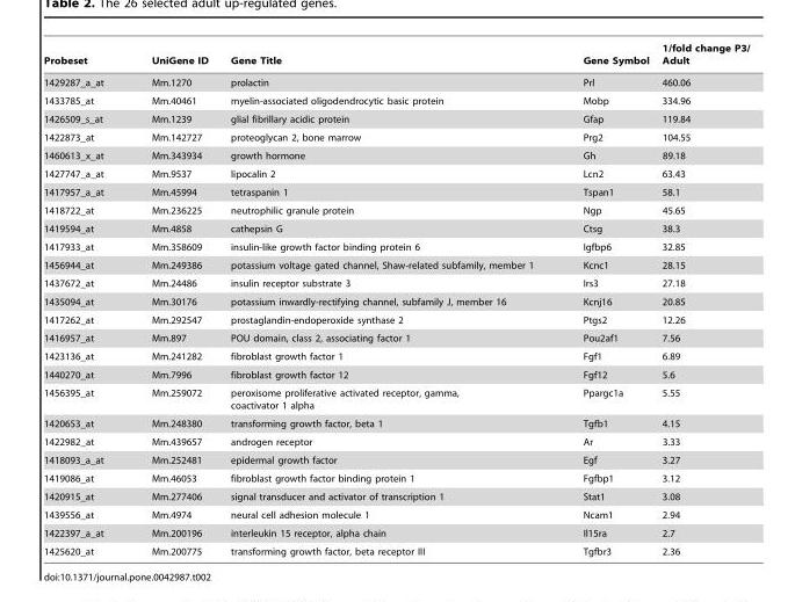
<table><thead><tr><td>Probeset</td><td>UniGene ID</td><td>Gene Title</td><td>Gene Symbol</td><td>1/fold change P3/ Adult</td></tr></thead><tbody><tr><td>1429287_a_at</td><td>Mm.1270</td><td>prolactin</td><td>Prl</td><td>460.06</td></tr><tr><td>1433785_at</td><td>Mm.40461</td><td>myelin-associated oligodendrocytic basic protein</td><td>Mobp</td><td>334.96</td></tr><tr><td>1426509_s_at</td><td>Mm.1239</td><td>glial fibrillary acidic protein</td><td>Gfap</td><td>119.84</td></tr><tr><td>1422873_at</td><td>Mm.142727</td><td>proteoglycan 2, bone marrow</td><td>Prg2</td><td>104.55</td></tr><tr><td>1460613_x_at</td><td>Mm.343934</td><td>growth hormone</td><td>Gh</td><td>89.18</td></tr><tr><td>1427747_a_at</td><td>Mm.9537</td><td>lipocalin 2</td><td>Lcn2</td><td>63.43</td></tr><tr><td>1417957_a_at</td><td>Mm.45994</td><td>tetraspanin 1</td><td>Tspan1</td><td>58.1</td></tr><tr><td>1418722_at</td><td>Mm.236225</td><td>neutrophilic granule protein</td><td>Ngp</td><td>45.65</td></tr><tr><td>1419594_at</td><td>Mm.4858</td><td>cathepsin G</td><td>Ctsg</td><td>38.3</td></tr><tr><td>1417933_at</td><td>Mm.358609</td><td>insulin-like growth factor binding protein 6</td><td>Igfbp6</td><td>32.85</td></tr><tr><td>1456944_at</td><td>Mm.249386</td><td>potassium voltage gated channel, Shaw-related subfamily, member 1</td><td>Kcnc1</td><td>28.15</td></tr><tr><td>1437672_at</td><td>Mm.24486</td><td>insulin receptor substrate 3</td><td>Irs3</td><td>27.18</td></tr><tr><td>1435094_at</td><td>Mm.30176</td><td>potassium inwardly-rectifying channel, subfamily J, member 16</td><td>Kcnj16</td><td>20.85</td></tr><tr><td>1417262_at</td><td>Mm.292547</td><td>prostaglandin-endoperoxide synthase 2</td><td>Ptgs2</td><td>12.26</td></tr><tr><td>1416957_at</td><td>Mm.897</td><td>POU domain, class 2, associating factor 1</td><td>Pou2af1</td><td>7.56</td></tr><tr><td>1423136_at</td><td>Mm.241282</td><td>fibroblast growth factor 1</td><td>Fgf1</td><td>6.89</td></tr><tr><td>1440270_at</td><td>Mm.7996</td><td>fibroblast growth factor 12</td><td>Fgf12</td><td>5.6</td></tr><tr><td>1456395_at</td><td>Mm.259072</td><td>peroxisome proliferative activated receptor, gamma, coactivator 1 alpha</td><td>Ppargc1a</td><td>5.55</td></tr><tr><td>1420653_at</td><td>Mm.248380</td><td>transforming growth factor, beta 1</td><td>Tgfb1</td><td>4.15</td></tr><tr><td>1422982_at</td><td>Mm.439657</td><td>androgen receptor</td><td>Ar</td><td>3.33</td></tr><tr><td>1418093_a_at</td><td>Mm.252481</td><td>epidermal growth factor</td><td>Egf</td><td>3.27</td></tr><tr><td>1419086_at</td><td>Mm.46053</td><td>fibroblast growth factor binding protein 1</td><td>Fgfbp1</td><td>3.12</td></tr><tr><td>1420915_at</td><td>Mm.277406</td><td>signal transducer and activator of transcription 1</td><td>Stat1</td><td>3.08</td></tr><tr><td>1439556_at</td><td>Mm.4974</td><td>neural cell adhesion molecule 1</td><td>Ncam1</td><td>2.94</td></tr><tr><td>1422397_a_at</td><td>Mm.200196</td><td>interleukin 15 receptor, alpha chain</td><td>Il15ra</td><td>2.7</td></tr><tr><td>1425620_at</td><td>Mm.200775</td><td>transforming growth factor, beta receptor III</td><td>Tgfbr3</td><td>2.36</td></tr></tbody></table>